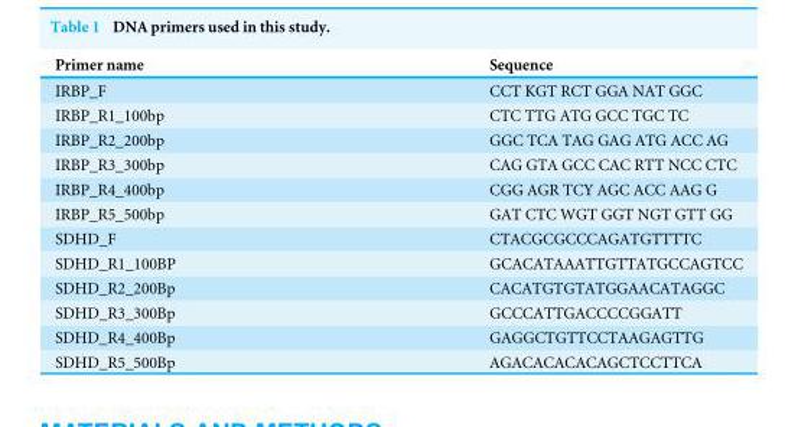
<table><thead><tr><td>Primer name</td><td>Sequence</td></tr></thead><tbody><tr><td>IRBP_F</td><td>CCT KGT RCT GGA NAT GGC</td></tr><tr><td>IRBP_R1_100bp</td><td>CTC TTG ATG GCC TGC TC</td></tr><tr><td>IRBP_R2_200bp</td><td>GGC TCA TAG GAG ATG ACC AG</td></tr><tr><td>IRBP_R3_300bp</td><td>CAG GTA GCC CAC RTT NCC CTC</td></tr><tr><td>IRBP_R4_400bp</td><td>CGG AGR TCY AGC ACC AAG G</td></tr><tr><td>IRBP_R5_500bp</td><td>GAT CTC WGT GGT NGT GTT GG</td></tr><tr><td>SDHD_F</td><td>CTACGCGCCCAGATGTTTTC</td></tr><tr><td>SDHD_R1_100BP</td><td>GCACATAAATTGTTATGCCAGTCC</td></tr><tr><td>SDHD_R2_200Bp</td><td>CACATGTGTATGGAACATAGGC</td></tr><tr><td>SDHD_R3_300Bp</td><td>GCCCATTGACCCCGGATT</td></tr><tr><td>SDHD_R4_400Bp</td><td>GAGGCTGTTCCTAAGAGTTG</td></tr><tr><td>SDHD_R5_500Bp</td><td>AGACACACACAGCTCCTTCA</td></tr></tbody></table>